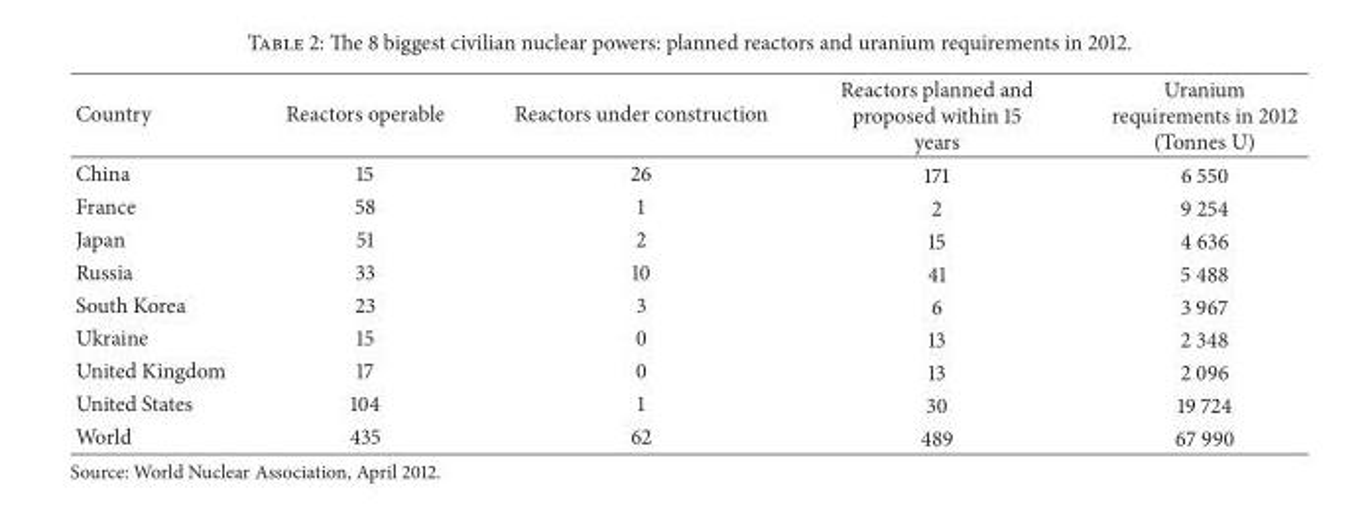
<table><thead><tr><td>Country</td><td>Reactors operable</td><td>Reactors under construction</td><td>Reactors planned and proposed within 15 years</td><td>Uranium requirements in 2012 (Tonnes U)</td></tr></thead><tbody><tr><td>China</td><td>15</td><td>26</td><td>171</td><td>6 550</td></tr><tr><td>France</td><td>58</td><td>1</td><td>2</td><td>9 254</td></tr><tr><td>Japan</td><td>51</td><td>2</td><td>15</td><td>4 636</td></tr><tr><td>Russia</td><td>33</td><td>10</td><td>41</td><td>5 488</td></tr><tr><td>South Korea</td><td>23</td><td>3</td><td>6</td><td>3 967</td></tr><tr><td>Ukraine</td><td>15</td><td>0</td><td>13</td><td>2 348</td></tr><tr><td>United Kingdom</td><td>17</td><td>0</td><td>13</td><td>2 096</td></tr><tr><td>United States</td><td>104</td><td>1</td><td>30</td><td>19 724</td></tr><tr><td>World</td><td>435</td><td>62</td><td>489</td><td>67 990</td></tr></tbody></table>